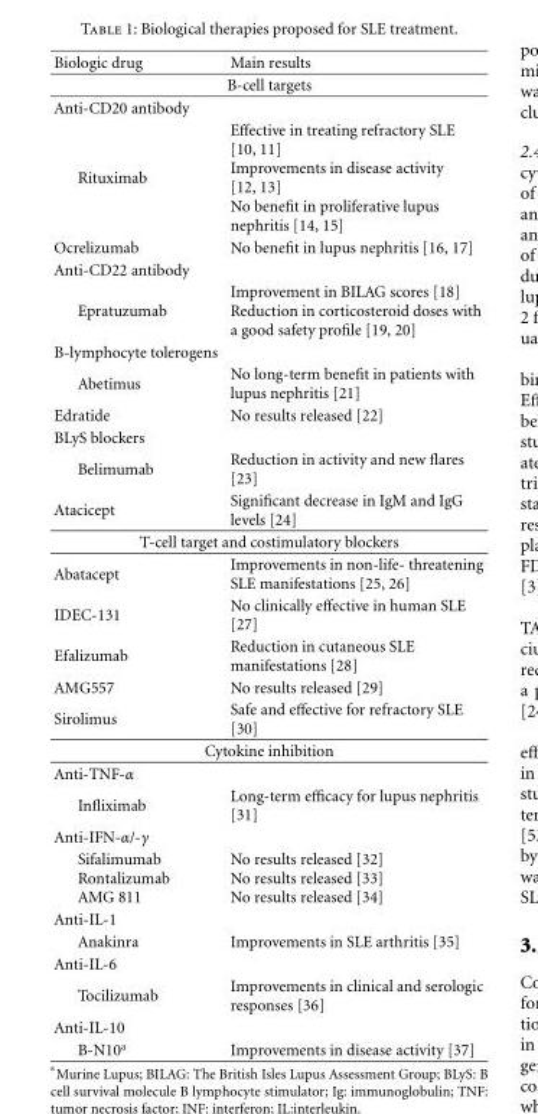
<table><thead><tr><td>Biologic drug</td><td>Main results</td></tr></thead><tbody><tr><td colspan="2">B-cell targets</td></tr><tr><td colspan="2">Anti-CD20 antibody</td></tr><tr><td>Rituximab</td><td>Effective in treating refractory SLE [10, 11] Improvements in disease activity [12, 13] No benefit in proliferative lupus nephritis [14, 15]</td></tr><tr><td>Ocrelizumab</td><td>No benefit in lupus nephritis [16, 17]</td></tr><tr><td colspan="2">Anti-CD22 antibody</td></tr><tr><td>Epratuzumab</td><td>Improvement in BILAG scores [18] Reduction in corticosteroid doses with a good safety profile [19, 20]</td></tr><tr><td colspan="2">B-lymphocyte tolerogens</td></tr><tr><td>Abetimus</td><td>No long-term benefit in patients with lupus nephritis [21]</td></tr><tr><td>Edratide</td><td>No results released [22]</td></tr><tr><td colspan="2">BLyS blockers</td></tr><tr><td>Belimumab</td><td>Reduction in activity and new flares [23]</td></tr><tr><td>Atacicept</td><td>Significant decrease in IgM and IgG levels [24]</td></tr><tr><td colspan="2">T-cell target and costimulatory blockers</td></tr><tr><td>Abatacept</td><td>Improvements in non-life- threatening SLE manifestations [25, 26]</td></tr><tr><td>IDEC-131</td><td>No clinically effective in human SLE [27]</td></tr><tr><td>Efalizumab</td><td>Reduction in cutaneous SLE manifestations [28]</td></tr><tr><td>AMG557</td><td>No results released [29]</td></tr><tr><td>Sirolimus</td><td>Safe and effective for refractory SLE [30]</td></tr><tr><td colspan="2">Cytokine inhibition</td></tr><tr><td colspan="2">Anti-TNF-α</td></tr><tr><td>Infliximab</td><td>Long-term efficacy for lupus nephritis [31]</td></tr><tr><td colspan="2">Anti-IFN-α/-γ</td></tr><tr><td>Sifalimumab Rontalizumab AMG 811</td><td>No results released [32] No results released [33] No results released [34]</td></tr><tr><td colspan="2">Anti-IL-1</td></tr><tr><td>Anakinra</td><td>Improvements in SLE arthritis [35]</td></tr><tr><td colspan="2">Anti-IL-6</td></tr><tr><td>Tocilizumab</td><td>Improvements in clinical and serologic responses [36]</td></tr><tr><td colspan="2">Anti-IL-10</td></tr><tr><td>B-N10<sup>a</sup></td><td>Improvements in disease activity [37]</td></tr></tbody></table>